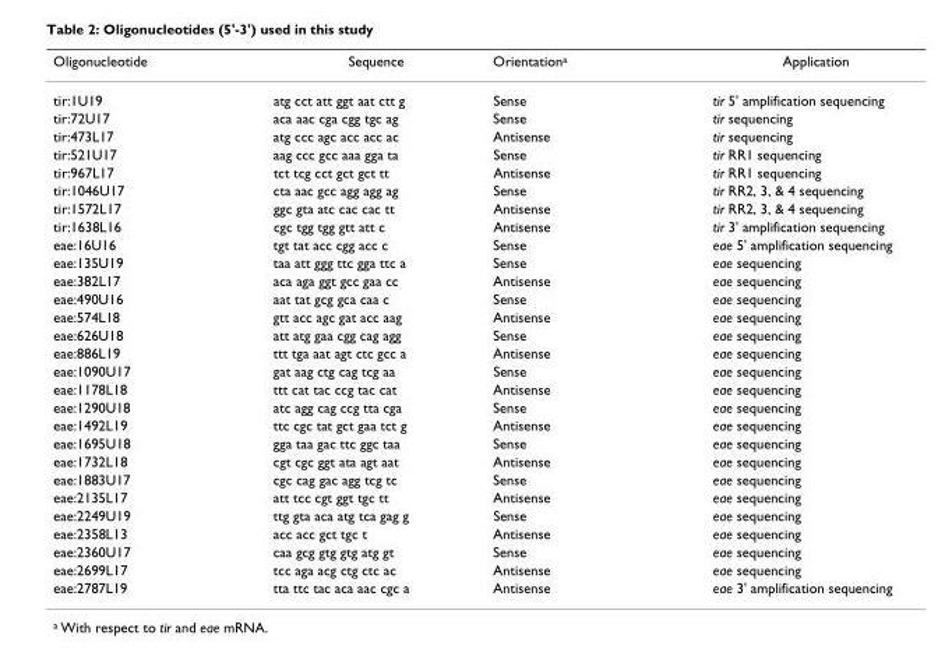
<table><thead><tr><td>Oligonucleotide</td><td>Sequence</td><td>Orientation<sup>a</sup></td><td>Application</td></tr></thead><tbody><tr><td>tir:1U19</td><td>atg cct att ggt aat ctt g</td><td>Sense</td><td>tir 5&#x27; amplification sequencing</td></tr><tr><td>tir:72U17</td><td>aca aac cga cgg tgc ag</td><td>Sense</td><td>tir sequencing</td></tr><tr><td>tir:473L17</td><td>atg ccc agc acc acc ac</td><td>Antisense</td><td>tir sequencing</td></tr><tr><td>tir:521U17</td><td>aag ccc gcc aaa gga ta</td><td>Sense</td><td>tir RR1 sequencing</td></tr><tr><td>tir:967L17</td><td>tct tcg cct gct gct tt</td><td>Antisense</td><td>tir RR1 sequencing</td></tr><tr><td>tir:1046U17</td><td>cta aac gcc agg agg ag</td><td>Sense</td><td>tir RR2, 3, &amp; 4 sequencing</td></tr><tr><td>tir:1572L17</td><td>ggc gta atc cac cac tt</td><td>Antisense</td><td>tir RR2, 3, &amp; 4 sequencing</td></tr><tr><td>tir:1638L16</td><td>cgc tgg tgg gtt att c</td><td>Antisense</td><td>tir 3&#x27; amplification sequencing</td></tr><tr><td>eae:16U16</td><td>tgt tat acc cgg acc c</td><td>Sense</td><td>eae 5&#x27; amplification sequencing</td></tr><tr><td>eae:135U19</td><td>taa att ggg ttc gga ttc a</td><td>Sense</td><td>eae sequencing</td></tr><tr><td>eae:382L17</td><td>aca aga ggt gcc gaa cc</td><td>Antisense</td><td>eae sequencing</td></tr><tr><td>eae:490U16</td><td>aat tat gcg gca caa c</td><td>Sense</td><td>eae sequencing</td></tr><tr><td>eae:574L18</td><td>gtt acc agc gat acc aag</td><td>Antisense</td><td>eae sequencing</td></tr><tr><td>eae:626U18</td><td>att atg gaa cgg cag agg</td><td>Sense</td><td>eae sequencing</td></tr><tr><td>eae:886L19</td><td>ttt tga aat agt ctc gcc a</td><td>Antisense</td><td>eae sequencing</td></tr><tr><td>eae:1090U17</td><td>gat aag ctg cag tcg aa</td><td>Sense</td><td>eae sequencing</td></tr><tr><td>eae:1178L18</td><td>ttt cat tac ccg tac cat</td><td>Antisense</td><td>eae sequencing</td></tr><tr><td>eae:1290U18</td><td>atc agg cag ccg tta cga</td><td>Sense</td><td>eae sequencing</td></tr><tr><td>eae:1492L19</td><td>ttc cgc tat gct gaa tct g</td><td>Antisense</td><td>eae sequencing</td></tr><tr><td>eae:1695U18</td><td>gga taa gac ttc ggc taa</td><td>Sense</td><td>eae sequencing</td></tr><tr><td>eae:1732L18</td><td>cgt cgc ggt ata agt aat</td><td>Antisense</td><td>eae sequencing</td></tr><tr><td>eae:1883U17</td><td>cgc cag gac agg tcg tc</td><td>Sense</td><td>eae sequencing</td></tr><tr><td>eae:2135L17</td><td>att tcc cgt ggt tgc tt</td><td>Antisense</td><td>eae sequencing</td></tr><tr><td>eae:2249U19</td><td>ttg gta aca atg tca gag g</td><td>Sense</td><td>eae sequencing</td></tr><tr><td>eae:2358L13</td><td>acc acc gct tgc t</td><td>Antisense</td><td>eae sequencing</td></tr><tr><td>eae:2360U17</td><td>caa gcg gtg gtg atg gt</td><td>Sense</td><td>eae sequencing</td></tr><tr><td>eae:2699L17</td><td>tcc aga acg ctg ctc ac</td><td>Antisense</td><td>eae sequencing</td></tr><tr><td>eae:2787L19</td><td>tta ttc tac aca aac cgc a</td><td>Antisense</td><td>eae 3&#x27; amplification sequencing</td></tr></tbody></table>